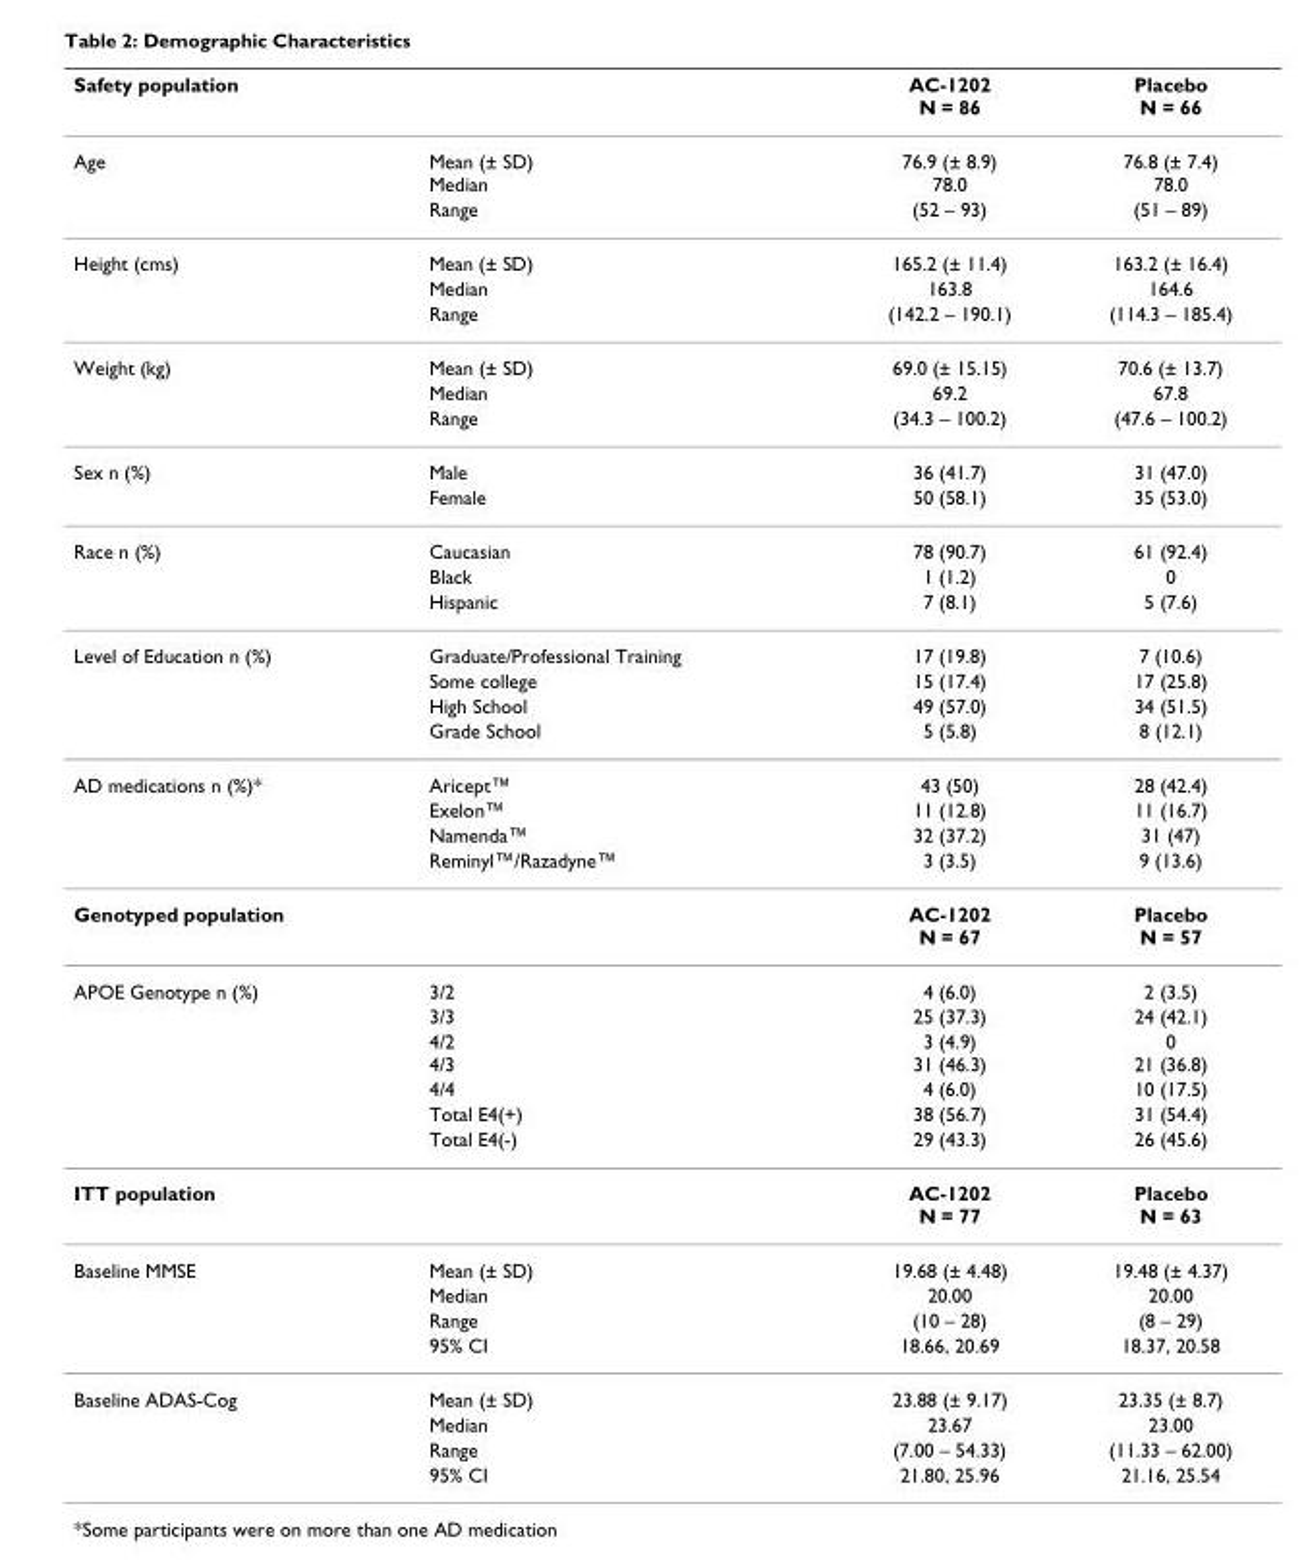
<table><thead><tr><td>Safety population</td><td></td><td>AC-1202 N = 86</td><td>Placebo N = 66</td></tr></thead><tbody><tr><td rowspan="2">Age</td><td>Mean (± SD) Median</td><td>76.9 (± 8.9) 78.0</td><td>76.8 (± 7.4) 78.0</td></tr><tr><td>Range</td><td>(52 – 93)</td><td>(51 – 89)</td></tr><tr><td rowspan="3">Height (cms)</td><td>Mean (± SD)</td><td>165.2 (± 11.4)</td><td>163.2 (± 16.4)</td></tr><tr><td>Median</td><td>163.8</td><td>164.6</td></tr><tr><td>Range</td><td>(142.2 – 190.1)</td><td>(114.3 – 185.4)</td></tr><tr><td rowspan="3">Weight (kg)</td><td>Mean (± SD)</td><td>69.0 (± 15.15)</td><td>70.6 (± 13.7)</td></tr><tr><td>Median</td><td>69.2</td><td>67.8</td></tr><tr><td>Range</td><td>(34.3 – 100.2)</td><td>(47.6 – 100.2)</td></tr><tr><td rowspan="2">Sex n (%)</td><td>Male</td><td>36 (41.7)</td><td>31 (47.0)</td></tr><tr><td>Female</td><td>50 (58.1)</td><td>35 (53.0)</td></tr><tr><td rowspan="3">Race n (%)</td><td>Caucasian</td><td>78 (90.7)</td><td>61 (92.4)</td></tr><tr><td>Black</td><td>1 (1.2)</td><td>0</td></tr><tr><td>Hispanic</td><td>7 (8.1)</td><td>5 (7.6)</td></tr><tr><td rowspan="4">Level of Education n (%)</td><td>Graduate/Professional Training</td><td>17 (19.8)</td><td>7 (10.6)</td></tr><tr><td>Some college</td><td>15 (17.4)</td><td>17 (25.8)</td></tr><tr><td>High School</td><td>49 (57.0)</td><td>34 (51.5)</td></tr><tr><td>Grade School</td><td>5 (5.8)</td><td>8 (12.1)</td></tr><tr><td rowspan="4">AD medications n (%)*</td><td>Aricept™</td><td>43 (50)</td><td>28 (42.4)</td></tr><tr><td>Exelon™</td><td>11 (12.8)</td><td>11 (16.7)</td></tr><tr><td>Namenda™</td><td>32 (37.2)</td><td>31 (47)</td></tr><tr><td>Reminyl™/Razadyne™</td><td>3 (3.5)</td><td>9 (13.6)</td></tr><tr><td>Genotyped population</td><td></td><td>AC-1202 N = 67</td><td>Placebo N = 57</td></tr><tr><td rowspan="6">APOE Genotype n (%)</td><td>3/2</td><td>4 (6.0)</td><td>2 (3.5)</td></tr><tr><td>3/3</td><td>25 (37.3)</td><td>24 (42.1)</td></tr><tr><td>4/2 4/3</td><td>3 (4.9) 31 (46.3)</td><td>0 21 (36.8)</td></tr><tr><td>4/4</td><td>4 (6.0)</td><td>10 (17.5)</td></tr><tr><td>Total E4(+)</td><td>38 (56.7)</td><td>31 (54.4)</td></tr><tr><td>Total E4(-)</td><td>29 (43.3)</td><td>26 (45.6)</td></tr><tr><td>ITT population</td><td></td><td>AC-1202 N = 77</td><td>Placebo N = 63</td></tr><tr><td rowspan="4">Baseline MMSE</td><td>Mean (± SD)</td><td>19.68 (± 4.48)</td><td>19.48 (± 4.37)</td></tr><tr><td>Median</td><td>20.00</td><td>20.00</td></tr><tr><td>Range</td><td>(10 – 28)</td><td>(8 – 29)</td></tr><tr><td>95% CI</td><td>18.66, 20.69</td><td>18.37, 20.58</td></tr><tr><td rowspan="4">Baseline ADAS-Cog</td><td>Mean (± SD)</td><td>23.88 (± 9.17)</td><td>23.35 (± 8.7)</td></tr><tr><td>Median</td><td>23.67</td><td>23.00</td></tr><tr><td>Range</td><td>(7.00 – 54.33)</td><td>(11.33 – 62.00)</td></tr><tr><td>95% CI</td><td>21.80, 25.96</td><td>21.16, 25.54</td></tr></tbody></table>